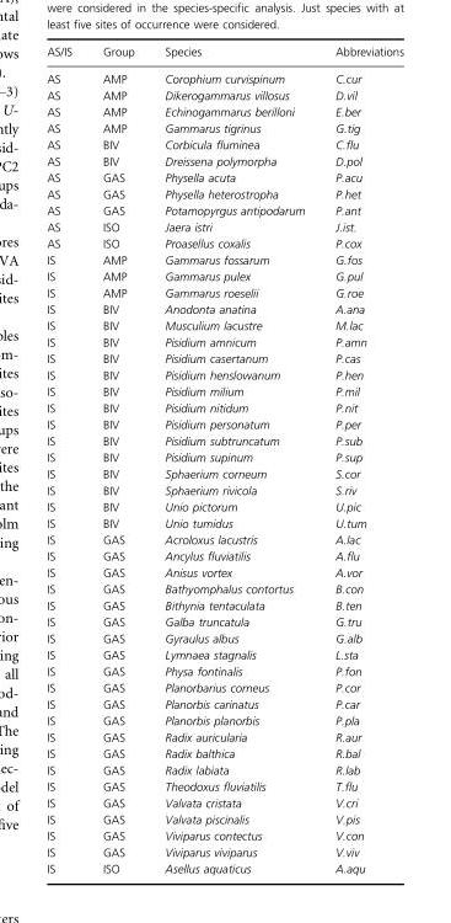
<table><thead><tr><td>AS/IS</td><td>Group</td><td>Species</td><td>Abbreviations</td></tr></thead><tbody><tr><td>AS</td><td>AMP</td><td>Corophium curvispinum</td><td>C.cur</td></tr><tr><td>AS</td><td>AMP</td><td>Dikerogammarus villosus</td><td>D.vil</td></tr><tr><td>AS</td><td>AMP</td><td>Echinogammarus berilloni</td><td>E.ber</td></tr><tr><td>AS</td><td>AMP</td><td>Gammarus tigrinus</td><td>G.tig</td></tr><tr><td>AS</td><td>BIV</td><td>Corbicula fluminea</td><td>C.flu</td></tr><tr><td>AS</td><td>BIV</td><td>Dreissena polymorpha</td><td>D.pol</td></tr><tr><td>AS</td><td>GAS</td><td>Physella acuta</td><td>P.acu</td></tr><tr><td>AS</td><td>GAS</td><td>Physella heterostropha</td><td>P.het</td></tr><tr><td>AS</td><td>GAS</td><td>Potamopyrgus antipodarum</td><td>P.ant</td></tr><tr><td>AS</td><td>ISO</td><td>Jaera istri</td><td>J.ist.</td></tr><tr><td>AS</td><td>ISO</td><td>Proasellus coxalis</td><td>P.cox</td></tr><tr><td>IS</td><td>AMP</td><td>Gammarus fossarum</td><td>G.fos</td></tr><tr><td>IS</td><td>AMP</td><td>Gammarus pulex</td><td>G.pul</td></tr><tr><td>IS</td><td>AMP</td><td>Gammarus roeselii</td><td>G.roe</td></tr><tr><td>IS</td><td>BIV</td><td>Anodonta anatina</td><td>A.ana</td></tr><tr><td>IS</td><td>BIV</td><td>Musculium lacustre</td><td>M.lac</td></tr><tr><td>IS</td><td>BIV</td><td>Pisidium amnicum</td><td>P.amn</td></tr><tr><td>IS</td><td>BIV</td><td>Pisidium casertanum</td><td>P.cas</td></tr><tr><td>IS</td><td>BIV</td><td>Pisidium henslowanum</td><td>P.hen</td></tr><tr><td>IS</td><td>BIV</td><td>Pisidium milium</td><td>P.mil</td></tr><tr><td>IS</td><td>BIV</td><td>Pisidium nitidum</td><td>P.nit</td></tr><tr><td>IS</td><td>BIV</td><td>Pisidium personatum</td><td>P.per</td></tr><tr><td>IS</td><td>BIV</td><td>Pisidium subtruncatum</td><td>P.sub</td></tr><tr><td>IS</td><td>BIV</td><td>Pisidium supinum</td><td>P.sup</td></tr><tr><td>IS</td><td>BIV</td><td>Sphaerium corneum</td><td>S.cor</td></tr><tr><td>IS</td><td>BIV</td><td>Sphaerium rivicola</td><td>S.riv</td></tr><tr><td>IS</td><td>BIV</td><td>Unio pictorum</td><td>U.pic</td></tr><tr><td>IS</td><td>BIV</td><td>Unio tumidus</td><td>U.tum</td></tr><tr><td>IS</td><td>GAS</td><td>Acroloxus lacustris</td><td>A.lac</td></tr><tr><td>IS</td><td>GAS</td><td>Ancylus fluviatilis</td><td>A.flu</td></tr><tr><td>IS</td><td>GAS</td><td>Anisus vortex</td><td>A.vor</td></tr><tr><td>IS</td><td>GAS</td><td>Bathyomphalus contortus</td><td>B.con</td></tr><tr><td>IS</td><td>GAS</td><td>Bithynia tentaculata</td><td>B.ten</td></tr><tr><td>IS</td><td>GAS</td><td>Galba truncatula</td><td>G.tru</td></tr><tr><td>IS</td><td>GAS</td><td>Gyraulus albus</td><td>G.alb</td></tr><tr><td>IS</td><td>GAS</td><td>Lymnaea stagnalis</td><td>L.sta</td></tr><tr><td>IS</td><td>GAS</td><td>Physa fontinalis</td><td>P.fon</td></tr><tr><td>IS</td><td>GAS</td><td>Planorbarius corneus</td><td>P.cor</td></tr><tr><td>IS</td><td>GAS</td><td>Planorbis carinatus</td><td>P.car</td></tr><tr><td>IS</td><td>GAS</td><td>Planorbis planorbis</td><td>P.pla</td></tr><tr><td>IS</td><td>GAS</td><td>Radix auricularia</td><td>R.aur</td></tr><tr><td>IS</td><td>GAS</td><td>Radix balthica</td><td>R.bal</td></tr><tr><td>IS</td><td>GAS</td><td>Radix labiata</td><td>R.lab</td></tr><tr><td>IS</td><td>GAS</td><td>Theodoxus fluviatilis</td><td>T.flu</td></tr><tr><td>IS</td><td>GAS</td><td>Valvata cristata</td><td>V.cri</td></tr><tr><td>IS</td><td>GAS</td><td>Valvata piscinalis</td><td>V.pis</td></tr><tr><td>IS</td><td>GAS</td><td>Viviparus contectus</td><td>V.con</td></tr><tr><td>IS</td><td>GAS</td><td>Viviparus viviparus</td><td>V.viv</td></tr><tr><td>IS</td><td>ISO</td><td>Asellus aquaticus</td><td>A.aqu</td></tr></tbody></table>